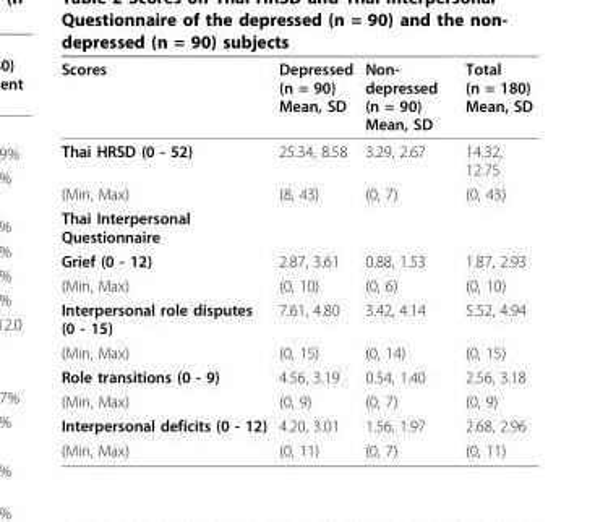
<table><thead><tr><td>Scores</td><td>Depressed (n = 90) Mean, SD</td><td>Non- depressed (n = 90) Mean, SD</td><td>Total (n = 180) Mean, SD</td></tr></thead><tbody><tr><td>Thai HRSD (0 - 52)</td><td>25.34, 8.58</td><td>3.29, 2.67</td><td>14.32, 12.75</td></tr><tr><td>(Min, Max)</td><td>(8, 43)</td><td>(0, 7)</td><td>(0, 43)</td></tr><tr><td colspan="4">Thai Interpersonal Questionnaire</td></tr><tr><td>Grief (0 - 12)</td><td>2.87, 3.61</td><td>0.88, 1.53</td><td>1.87, 2.93</td></tr><tr><td>(Min, Max)</td><td>(0, 10)</td><td>(0, 6)</td><td>(0, 10)</td></tr><tr><td>Interpersonal role disputes (0 - 15)</td><td>7.61, 4.80</td><td>3.42, 4.14</td><td>5.52, 4.94</td></tr><tr><td>(Min, Max)</td><td>(0, 15)</td><td>(0, 14)</td><td>(0, 15)</td></tr><tr><td>Role transitions (0 - 9)</td><td>4.56, 3.19</td><td>0.54, 1.40</td><td>2.56, 3.18</td></tr><tr><td>(Min, Max)</td><td>(0, 9)</td><td>(0, 7)</td><td>(0, 9)</td></tr><tr><td>Interpersonal deficits (0 - 12)</td><td>4.20, 3.01</td><td>1.56, 1.97</td><td>2.68, 2.96</td></tr><tr><td>(Min, Max)</td><td>(0, 11)</td><td>(0, 7)</td><td>(0, 11)</td></tr></tbody></table>